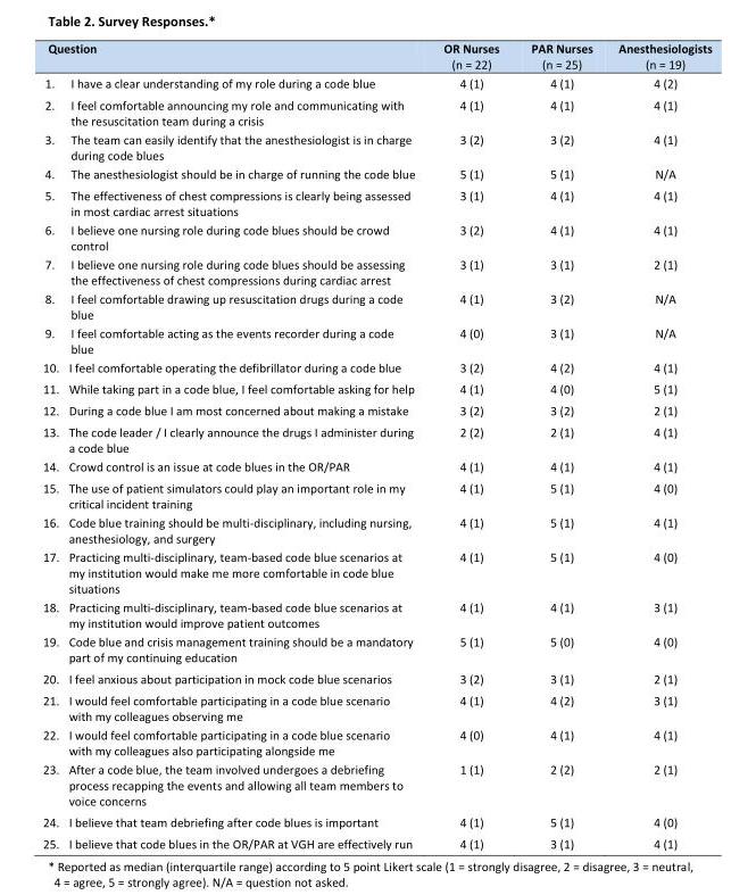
<table><thead><tr><td>Question</td><td>OR Nurses (n = 22)</td><td>PAR Nurses (n = 25)</td><td>Anesthesiologists (n = 19)</td></tr></thead><tbody><tr><td>1. I have a clear understanding of my role during a code blue</td><td>4 (1)</td><td>4 (1)</td><td>4 (2)</td></tr><tr><td>2. I feel comfortable announcing my role and communicating with the resuscitation team during a crisis</td><td>4 (1)</td><td>4 (1)</td><td>4 (1)</td></tr><tr><td>3. The team can easily identify that the anesthesiologist is in charge during code blues</td><td>3 (2)</td><td>3 (2)</td><td>4 (1)</td></tr><tr><td>4. The anesthesiologist should be in charge of running the code blue</td><td>5 (1)</td><td>5 (1)</td><td>N/A</td></tr><tr><td>5. The effectiveness of chest compressions is clearly being assessed in most cardiac arrest situations</td><td>3 (1)</td><td>4 (1)</td><td>4 (1)</td></tr><tr><td>6. I believe one nursing role during code blues should be crowd control</td><td>3 (2)</td><td>4 (1)</td><td>4 (1)</td></tr><tr><td>7. I believe one nursing role during code blues should be assessing the effectiveness of chest compressions during cardiac arrest</td><td>3 (1)</td><td>3 (1)</td><td>2 (1)</td></tr><tr><td>8. I feel comfortable drawing up resuscitation drugs during a code blue</td><td>4 (1)</td><td>3 (2)</td><td>N/A</td></tr><tr><td>9. I feel comfortable acting as the events recorder during a code blue</td><td>4 (0)</td><td>3 (1)</td><td>N/A</td></tr><tr><td>10. I feel comfortable operating the defibrillator during a code blue</td><td>3 (2)</td><td>4 (2)</td><td>4 (1)</td></tr><tr><td>11. While taking part in a code blue, I feel comfortable asking for help</td><td>4 (1)</td><td>4 (0)</td><td>5 (1)</td></tr><tr><td>12. During a code blue I am most concerned about making a mistake</td><td>3 (2)</td><td>3 (2)</td><td>2 (1)</td></tr><tr><td>13. The code leader / I clearly announce the drugs I administer during a code blue</td><td>2 (2)</td><td>2 (1)</td><td>4 (1)</td></tr><tr><td>14. Crowd control is an issue at code blues in the OR/PAR</td><td>4 (1)</td><td>4 (1)</td><td>4 (1)</td></tr><tr><td>15. The use of patient simulators could play an important role in my critical incident training</td><td>4 (1)</td><td>5 (1)</td><td>4 (0)</td></tr><tr><td>16. Code blue training should be multi-disciplinary, including nursing, anesthesiology, and surgery</td><td>4 (1)</td><td>5 (1)</td><td>4 (1)</td></tr><tr><td>17. Practicing multi-disciplinary, team-based code blue scenarios at my institution would make me more comfortable in code blue situations</td><td>4 (1)</td><td>5 (1)</td><td>4 (0)</td></tr><tr><td>18. Practicing multi-disciplinary, team-based code blue scenarios at my institution would improve patient outcomes</td><td>4 (1)</td><td>4 (1)</td><td>3 (1)</td></tr><tr><td>19. Code blue and crisis management training should be a mandatory part of my continuing education</td><td>5 (1)</td><td>5 (0)</td><td>4 (0)</td></tr><tr><td>20. I feel anxious about participation in mock code blue scenarios</td><td>3 (2)</td><td>3 (1)</td><td>2 (1)</td></tr><tr><td>21. I would feel comfortable participating in a code blue scenario with my colleagues observing me</td><td>4 (1)</td><td>4 (2)</td><td>3 (1)</td></tr><tr><td>22. I would feel comfortable participating in a code blue scenario with my colleagues also participating alongside me</td><td>4 (0)</td><td>4 (1)</td><td>4 (1)</td></tr><tr><td>23. After a code blue, the team involved undergoes a debriefing process recapping the events and allowing all team members to voice concerns</td><td>1 (1)</td><td>2 (2)</td><td>2 (1)</td></tr><tr><td>24. I believe that team debriefing after code blues is important</td><td>4 (1)</td><td>5 (1)</td><td>4 (0)</td></tr><tr><td>25. I believe that code blues in the OR/PAR at VGH are effectively run</td><td>4 (1)</td><td>3 (1)</td><td>4 (1)</td></tr></tbody></table>